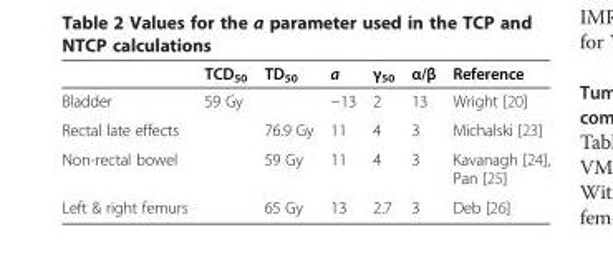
<table><thead><tr><td></td><td>TCD<sub>50</sub></td><td>TD<sub>50</sub></td><td>a</td><td>γ<sub>50</sub></td><td>α/β</td><td>Reference</td></tr></thead><tbody><tr><td>Bladder</td><td>59 Gy</td><td></td><td>−13</td><td>2</td><td>13</td><td>Wright [20]</td></tr><tr><td>Rectal late effects</td><td></td><td>76.9 Gy</td><td>11</td><td>4</td><td>3</td><td>Michalski [23]</td></tr><tr><td>Non-rectal bowel</td><td></td><td>59 Gy</td><td>11</td><td>4</td><td>3</td><td>Kavanagh [24], Pan [25]</td></tr><tr><td>Left &amp; right femurs</td><td></td><td>65 Gy</td><td>13</td><td>2.7</td><td>3</td><td>Deb [26]</td></tr></tbody></table>